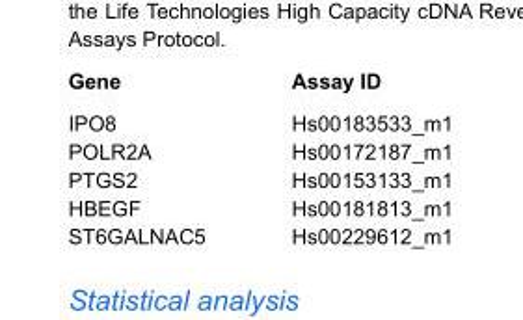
<table><thead><tr><td>Gene</td><td>Assay ID</td></tr></thead><tbody><tr><td>IPO8</td><td>Hs00183533_m1</td></tr><tr><td>POLR2A</td><td>Hs00172187_m1</td></tr><tr><td>PTGS2</td><td>Hs00153133_m1</td></tr><tr><td>HBEGF</td><td>Hs00181813_m1</td></tr><tr><td>ST6GALNAC5</td><td>Hs00229612_m1</td></tr></tbody></table>